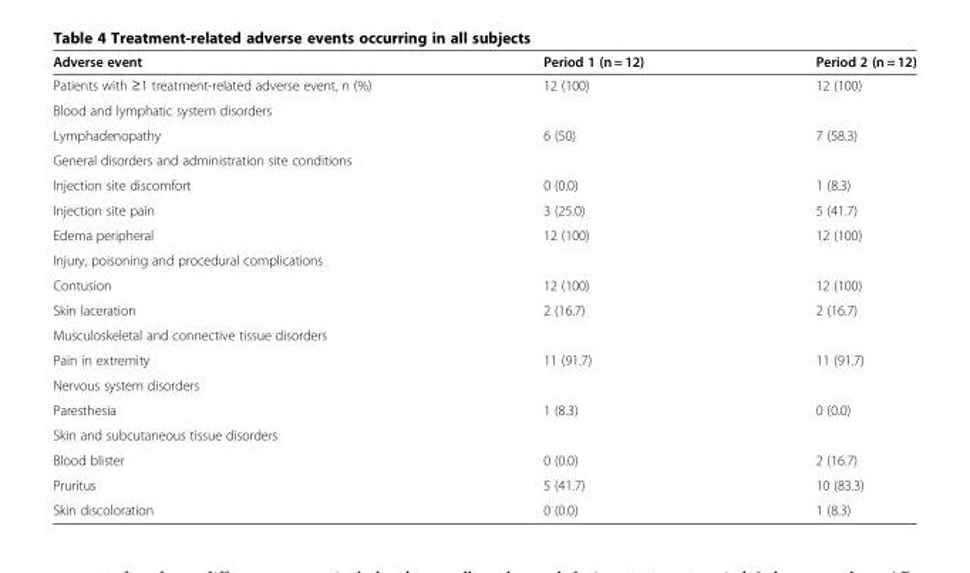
<table><thead><tr><td>Adverse event</td><td>Period 1 (n = 12)</td><td>Period 2 (n = 12)</td></tr></thead><tbody><tr><td>Patients with ≥1 treatment-related adverse event, n (%)</td><td>12 (100)</td><td>12 (100)</td></tr><tr><td colspan="3">Blood and lymphatic system disorders</td></tr><tr><td>Lymphadenopathy</td><td>6 (50)</td><td>7 (58.3)</td></tr><tr><td colspan="3">General disorders and administration site conditions</td></tr><tr><td>Injection site discomfort</td><td>0 (0.0)</td><td>1 (8.3)</td></tr><tr><td>Injection site pain</td><td>3 (25.0)</td><td>5 (41.7)</td></tr><tr><td>Edema peripheral</td><td>12 (100)</td><td>12 (100)</td></tr><tr><td colspan="3">Injury, poisoning and procedural complications</td></tr><tr><td>Contusion</td><td>12 (100)</td><td>12 (100)</td></tr><tr><td>Skin laceration</td><td>2 (16.7)</td><td>2 (16.7)</td></tr><tr><td colspan="3">Musculoskeletal and connective tissue disorders</td></tr><tr><td>Pain in extremity</td><td>11 (91.7)</td><td>11 (91.7)</td></tr><tr><td colspan="3">Nervous system disorders</td></tr><tr><td>Paresthesia</td><td>1 (8.3)</td><td>0 (0.0)</td></tr><tr><td colspan="3">Skin and subcutaneous tissue disorders</td></tr><tr><td>Blood blister</td><td>0 (0.0)</td><td>2 (16.7)</td></tr><tr><td>Pruritus</td><td>5 (41.7)</td><td>10 (83.3)</td></tr><tr><td>Skin discoloration</td><td>0 (0.0)</td><td>1 (8.3)</td></tr></tbody></table>